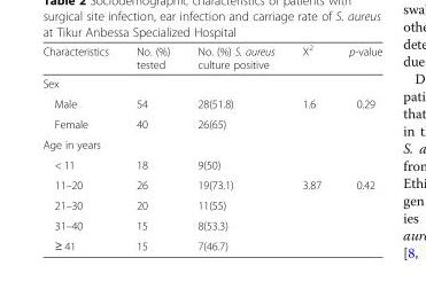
<table><thead><tr><td>Characteristics</td><td>No. (%) tested</td><td>No. (%) S. aureus culture positive</td><td>X<sup>2</sup></td><td>p-value</td></tr></thead><tbody><tr><td colspan="5">Sex</td></tr><tr><td>Male</td><td>54</td><td>28(51.8)</td><td>1.6</td><td>0.29</td></tr><tr><td>Female</td><td>40</td><td>26(65)</td><td></td><td></td></tr><tr><td colspan="5">Age in years</td></tr><tr><td>&lt; 11</td><td>18</td><td>9(50)</td><td></td><td></td></tr><tr><td>11–20</td><td>26</td><td>19(73.1)</td><td>3.87</td><td>0.42</td></tr><tr><td>21–30</td><td>20</td><td>11(55)</td><td></td><td></td></tr><tr><td>31–40</td><td>15</td><td>8(53.3)</td><td></td><td></td></tr><tr><td>≥ 41</td><td>15</td><td>7(46.7)</td><td></td><td></td></tr></tbody></table>